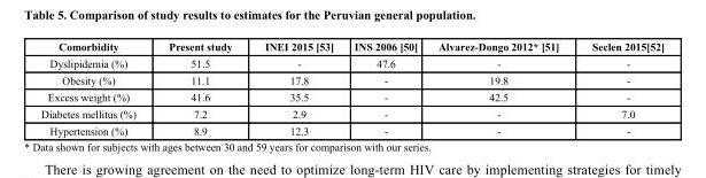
<table><thead><tr><td>Comorbidity</td><td>Present study</td><td>INEI 2015 [53]</td><td>INS 2006 [50]</td><td>Alvarez-Dongo 2012* [51]</td><td>Seclen 2015[52]</td></tr></thead><tbody><tr><td>Dyslipidemia (%)</td><td>51.5</td><td>-</td><td>47.6</td><td>-</td><td>-</td></tr><tr><td>Obesity (%)</td><td>11.1</td><td>17.8</td><td>-</td><td>19.8</td><td>-</td></tr><tr><td>Excess weight (%)</td><td>41.6</td><td>35.5</td><td>-</td><td>42.5</td><td>-</td></tr><tr><td>Diabetes mellitus (%)</td><td>7.2</td><td>2.9</td><td>-</td><td>-</td><td>7.0</td></tr><tr><td>Hypertension (%)</td><td>8.9</td><td>12.3</td><td>-</td><td>-</td><td>-</td></tr></tbody></table>